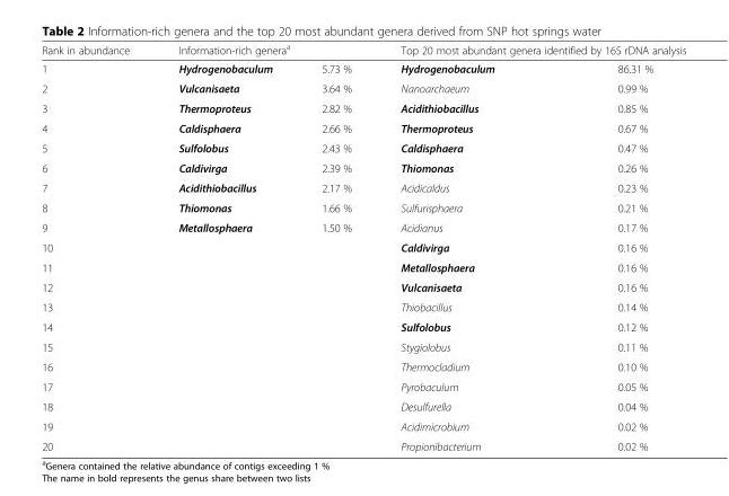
<table><thead><tr><td rowspan="2">Rank in abundance 1</td><td colspan="2">Information-rich genera<sup>a</sup></td><td colspan="2">Top 20 most abundant genera identified by 16S rDNA analysis</td></tr><tr><td>Hydrogenobaculum</td><td>5.73 %</td><td>Hydrogenobaculum</td><td>86.31 %</td></tr></thead><tbody><tr><td>2</td><td>Vulcanisaeta</td><td>3.64 %</td><td>Nanoarchaeum</td><td>0.99 %</td></tr><tr><td>3</td><td>Thermoproteus</td><td>2.82 %</td><td>Acidithiobacillus</td><td>0.85 %</td></tr><tr><td>4</td><td>Caldisphaera</td><td>2.66 %</td><td>Thermoproteus</td><td>0.67 %</td></tr><tr><td>5</td><td>Sulfolobus</td><td>2.43 %</td><td>Caldisphaera</td><td>0.47 %</td></tr><tr><td>6</td><td>Caldivirga</td><td>2.39 %</td><td>Thiomonas</td><td>0.26 %</td></tr><tr><td>7</td><td>Acidithiobacillus</td><td>2.17 %</td><td>Acidicaldus</td><td>0.23 %</td></tr><tr><td>8</td><td>Thiomonas</td><td>1.66 %</td><td>Sulfurisphaera</td><td>0.21 %</td></tr><tr><td>9</td><td>Metallosphaera</td><td>1.50 %</td><td>Acidianus</td><td>0.17 %</td></tr><tr><td>10</td><td></td><td></td><td>Caldivirga</td><td>0.16 %</td></tr><tr><td>11</td><td></td><td></td><td>Metallosphaera</td><td>0.16 %</td></tr><tr><td>12</td><td></td><td></td><td>Vulcanisaeta</td><td>0.16 %</td></tr><tr><td>13</td><td></td><td></td><td>Thiobacillus</td><td>0.14 %</td></tr><tr><td>14</td><td></td><td></td><td>Sulfolobus</td><td>0.12 %</td></tr><tr><td>15</td><td></td><td></td><td>Stygiolobus</td><td>0.11 %</td></tr><tr><td>16</td><td></td><td></td><td>Thermocladium</td><td>0.10 %</td></tr><tr><td>17</td><td></td><td></td><td>Pyrobaculum</td><td>0.05 %</td></tr><tr><td>18</td><td></td><td></td><td>Desulfurella</td><td>0.04 %</td></tr><tr><td>19</td><td></td><td></td><td>Acidimicrobium</td><td>0.02 %</td></tr><tr><td>20</td><td></td><td></td><td>Propionibacterium</td><td>0.02 %</td></tr></tbody></table>